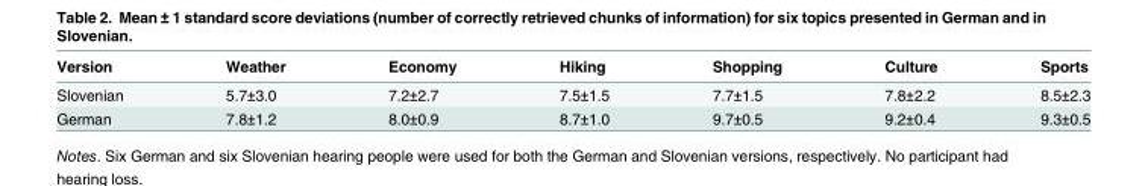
<table><thead><tr><td>Version</td><td>Weather</td><td>Economy</td><td>Hiking</td><td>Shopping</td><td>Culture</td><td>Sports</td></tr></thead><tbody><tr><td>Slovenian</td><td>5.7±3.0</td><td>7.2±2.7</td><td>7.5±1.5</td><td>7.7±1.5</td><td>7.8±2.2</td><td>8.5±2.3</td></tr><tr><td>German</td><td>7.8±1.2</td><td>8.0±0.9</td><td>8.7±1.0</td><td>9.7±0.5</td><td>9.2±0.4</td><td>9.3±0.5</td></tr></tbody></table>